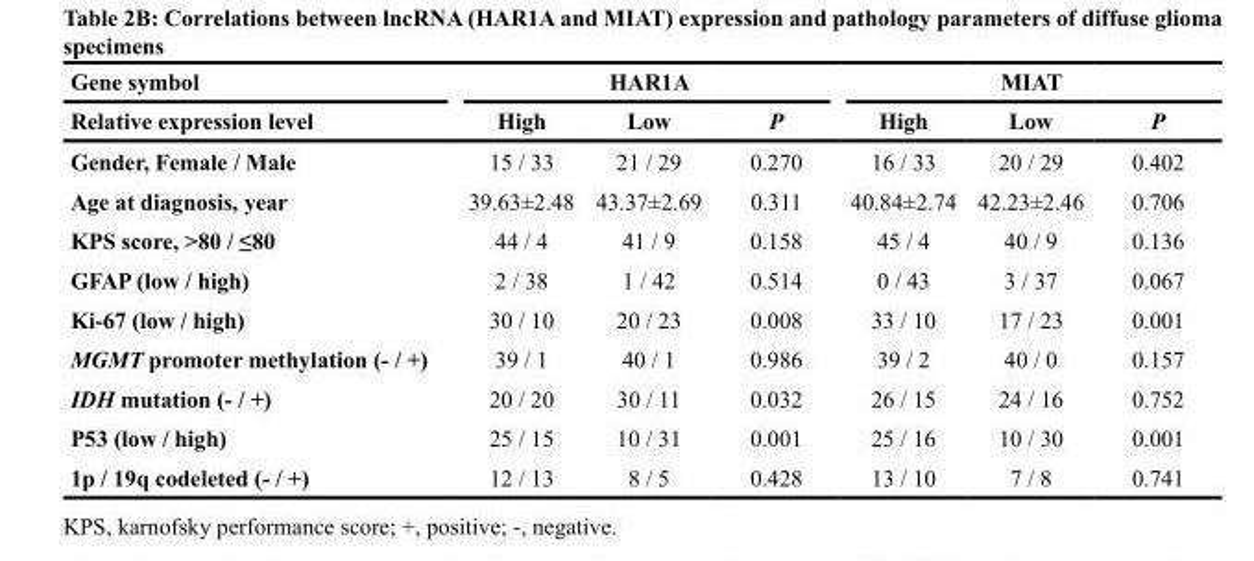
<table><thead><tr><td rowspan="2">Gene symbol Relative expression level</td><td colspan="3">HAR1A</td><td colspan="3">MIAT</td></tr><tr><td>High</td><td>Low</td><td>P</td><td>High</td><td>Low</td><td>P</td></tr></thead><tbody><tr><td>Gender, Female / Male</td><td>15 / 33</td><td>21 / 29</td><td>0.270</td><td>16 / 33</td><td>20 / 29</td><td>0.402</td></tr><tr><td>Age at diagnosis, year</td><td>39.63±2.48</td><td>43.37±2.69</td><td>0.311</td><td>40.84±2.74</td><td>42.23±2.46</td><td>0.706</td></tr><tr><td>KPS score, &gt;80 / ≤80</td><td>44 / 4</td><td>41 / 9</td><td>0.158</td><td>45 / 4</td><td>40 / 9</td><td>0.136</td></tr><tr><td>GFAP (low / high)</td><td>2 / 38</td><td>1 / 42</td><td>0.514</td><td>0 / 43</td><td>3 / 37</td><td>0.067</td></tr><tr><td>Ki-67 (low / high)</td><td>30 / 10</td><td>20 / 23</td><td>0.008</td><td>33 / 10</td><td>17 / 23</td><td>0.001</td></tr><tr><td>MGMT promoter methylation (- / +)</td><td>39 / 1</td><td>40 / 1</td><td>0.986</td><td>39 / 2</td><td>40 / 0</td><td>0.157</td></tr><tr><td>IDH mutation (- / +)</td><td>20 / 20</td><td>30 / 11</td><td>0.032</td><td>26 / 15</td><td>24 / 16</td><td>0.752</td></tr><tr><td>P53 (low / high)</td><td>25 / 15</td><td>10 / 31</td><td>0.001</td><td>25 / 16</td><td>10 / 30</td><td>0.001</td></tr><tr><td>1p / 19q codeleted (- / +)</td><td>12 / 13</td><td>8 / 5</td><td>0.428</td><td>13 / 10</td><td>7 / 8</td><td>0.741</td></tr></tbody></table>